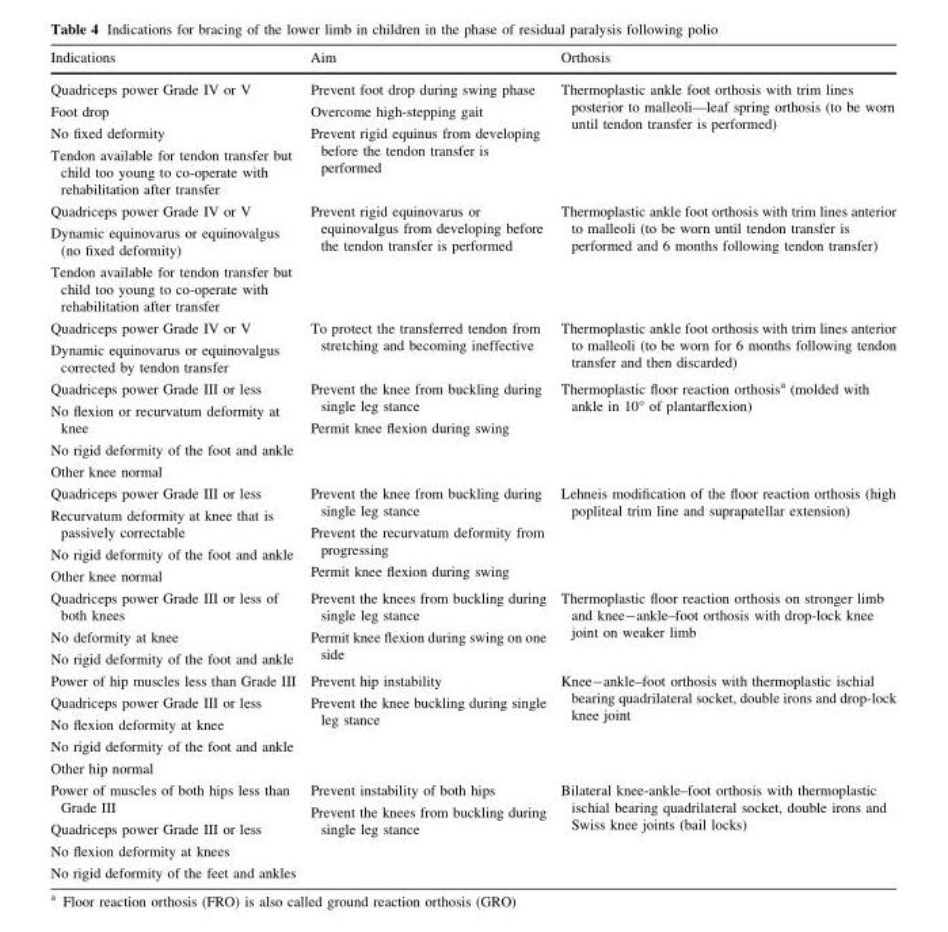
<table><thead><tr><td>Indications</td><td>Aim</td><td>Orthosis</td></tr></thead><tbody><tr><td>Quadriceps power Grade IV or V Foot drop No fixed deformity Tendon available for tendon transfer but child too young to co-operate with rehabilitation after transfer</td><td>Prevent foot drop during swing phase Overcome high-stepping gait Prevent rigid equinus from developing before the tendon transfer is performed</td><td>Thermoplastic ankle foot orthosis with trim lines posterior to malleoli—leaf spring orthosis (to be worn until tendon transfer is performed)</td></tr><tr><td>Quadriceps power Grade IV or V Dynamic equinovarus or equinovalgus (no fixed deformity) Tendon available for tendon transfer but child too young to co-operate with rehabilitation after transfer</td><td>Prevent rigid equinovarus or equinovalgus from developing before the tendon transfer is performed</td><td>Thermoplastic ankle foot orthosis with trim lines anterior to malleoli (to be worn until tendon transfer is performed and 6 months following tendon transfer)</td></tr><tr><td>Quadriceps power Grade IV or V Dynamic equinovarus or equinovalgus corrected by tendon transfer</td><td>To protect the transferred tendon from stretching and becoming ineffective</td><td>Thermoplastic ankle foot orthosis with trim lines anterior to malleoli (to be worn for 6 months following tendon transfer and then discarded)</td></tr><tr><td>Quadriceps power Grade III or less No flexion or recurvatum deformity at knee No rigid deformity of the foot and ankle Other knee normal</td><td>Prevent the knee from buckling during single leg stance Permit knee flexion during swing</td><td>Thermoplastic floor reaction orthosis<sup>a</sup> (molded with ankle in 10° of plantarflexion)</td></tr><tr><td>Quadriceps power Grade III or less Recurvatum deformity at knee that is passively correctable No rigid deformity of the foot and ankle Other knee normal</td><td>Prevent the knee from buckling during single leg stance Prevent the recurvatum deformity from progressing Permit knee flexion during swing</td><td>Lehneis modification of the floor reaction orthosis (high popliteal trim line and suprapatellar extension)</td></tr><tr><td>Quadriceps power Grade III or less of both knees No deformity at knee No rigid deformity of the foot and ankle</td><td>Prevent the knees from buckling during single leg stance Permit knee flexion during swing on one side</td><td>Thermoplastic floor reaction orthosis on stronger limb and knee-ankle–foot orthosis with drop-lock knee joint on weaker limb</td></tr><tr><td>Power of hip muscles less than Grade III Quadriceps power Grade III or less No flexion deformity at knee No rigid deformity of the foot and ankle Other hip normal</td><td>Prevent hip instability Prevent the knee buckling during single leg stance</td><td>Knee-ankle–foot orthosis with thermoplastic ischial bearing quadrilateral socket, double irons and drop-lock knee joint</td></tr><tr><td>Power of muscles of both hips less than Grade III Quadriceps power Grade III or less No flexion deformity at knees No rigid deformity of the feet and ankles</td><td>Prevent instability of both hips Prevent the knees from buckling during single leg stance</td><td>Bilateral knee-ankle–foot orthosis with thermoplastic ischial bearing quadrilateral socket, double irons and Swiss knee joints (bail locks)</td></tr></tbody></table>